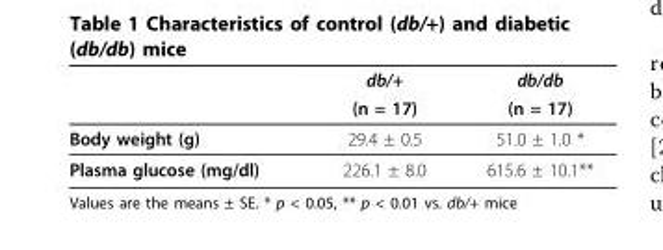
<table><thead><tr><td></td><td>db/+</td><td>db/db</td></tr></thead><tbody><tr><td></td><td>(n = 17)</td><td>(n = 17)</td></tr><tr><td>Body weight (g)</td><td>29.4 ± 0.5</td><td>51.0 ± 1.0 *</td></tr><tr><td>Plasma glucose (mg/dl)</td><td>226.1 ± 8.0</td><td>615.6 ± 10.1**</td></tr></tbody></table>